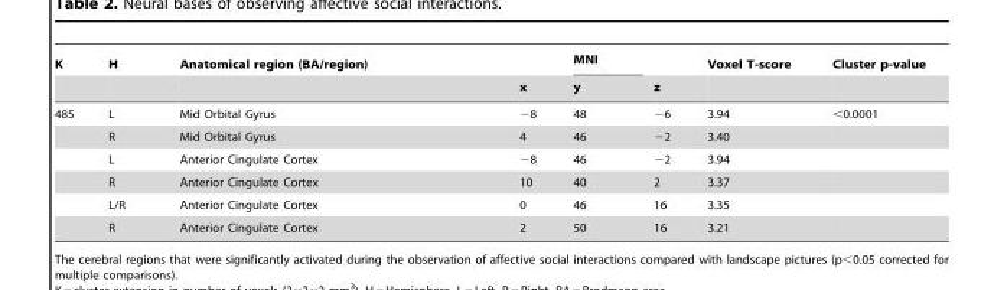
<table><thead><tr><td rowspan="2">K</td><td rowspan="2">H</td><td rowspan="2">Anatomical region (BA/region)</td><td rowspan="2">x</td><td rowspan="2">MNI y</td><td rowspan="2">z</td><td rowspan="2">Voxel T-score</td><td rowspan="2">Cluster p-value</td></tr><tr></tr></thead><tbody><tr><td rowspan="6">485</td><td>L</td><td>Mid Orbital Gyrus</td><td>−8</td><td>48</td><td>−6</td><td>3.94</td><td>&lt;0.0001</td></tr><tr><td>R</td><td>Mid Orbital Gyrus</td><td>4</td><td>46</td><td>−2</td><td>3.40</td><td></td></tr><tr><td>L</td><td>Anterior Cingulate Cortex</td><td>−8</td><td>46</td><td>−2</td><td>3.94</td><td></td></tr><tr><td>R</td><td>Anterior Cingulate Cortex</td><td>10</td><td>40</td><td>2</td><td>3.37</td><td></td></tr><tr><td>L/R</td><td>Anterior Cingulate Cortex</td><td>0</td><td>46</td><td>16</td><td>3.35</td><td></td></tr><tr><td>R</td><td>Anterior Cingulate Cortex</td><td>2</td><td>50</td><td>16</td><td>3.21</td><td></td></tr></tbody></table>